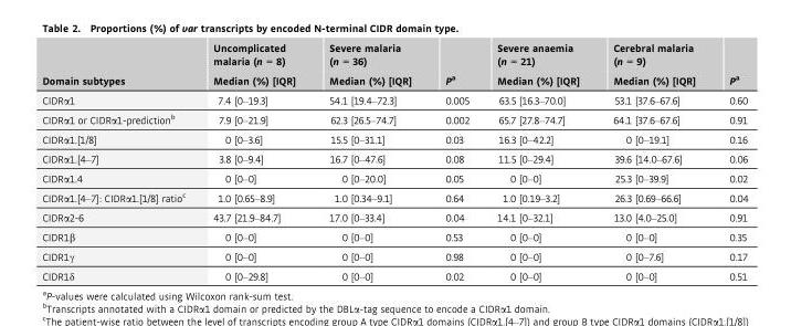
<table><thead><tr><td rowspan="2">Domain subtypes</td><td rowspan="2">Uncomplicated malaria (n = 8) Median (%) [IQR]</td><td rowspan="2">Severe malaria (n = 36) Median (%) [IQR]</td><td rowspan="2">Pa</td><td rowspan="2">Severe anaemia (n = 21) Median (%) [IQR]</td><td rowspan="2">Cerebral malaria (n = 9) Median (%) [IQR]</td><td rowspan="2">Pa</td></tr><tr></tr></thead><tbody><tr><td>CIDRα1</td><td>7.4 [0–19.3]</td><td>54.1 [19.4–72.3]</td><td>0.005</td><td>63.5 [16.3–70.0]</td><td>53.1 [37.6–67.6]</td><td>0.60</td></tr><tr><td>CIDRα1 or CIDRα1-prediction<sup>b</sup></td><td>7.9 [0–21.9]</td><td>62.3 [26.5–74.7]</td><td>0.002</td><td>65.7 [27.8–74.7]</td><td>64.1 [37.6–67.6]</td><td>0.91</td></tr><tr><td>CIDRα1.[1/8]</td><td>0 [0–3.6]</td><td>15.5 [0–31.1]</td><td>0.03</td><td>16.3 [0–42.2]</td><td>0 [0–19.1]</td><td>0.16</td></tr><tr><td>CIDRα1.[4–7]</td><td>3.8 [0–9.4]</td><td>16.7 [0–47.6]</td><td>0.08</td><td>11.5 [0–29.4]</td><td>39.6 [14.0–67.6]</td><td>0.06</td></tr><tr><td>CIDRα1.4</td><td>0 [0–0]</td><td>0 [0–20.0]</td><td>0.05</td><td>0 [0–0]</td><td>25.3 [0–39.9]</td><td>0.02</td></tr><tr><td>CIDRα1.[4–7]: CIDRα1.[1/8] ratio<sup>c</sup></td><td>1.0 [0.65–8.9]</td><td>1.0 [0.34–9.1]</td><td>0.64</td><td>1.0 [0.19–3.2]</td><td>26.3 [0.69–66.6]</td><td>0.04</td></tr><tr><td>CIDRα2-6</td><td>43.7 [21.9–84.7]</td><td>17.0 [0–33.4]</td><td>0.04</td><td>14.1 [0–32.1]</td><td>13.0 [4.0–25.0]</td><td>0.91</td></tr><tr><td>CIDR1β</td><td>0 [0–0]</td><td>0 [0–0]</td><td>0.53</td><td>0 [0–0]</td><td>0 [0–0]</td><td>0.35</td></tr><tr><td>CIDR1γ</td><td>0 [0–0]</td><td>0 [0–0]</td><td>0.98</td><td>0 [0–0]</td><td>0 [0–7.6]</td><td>0.17</td></tr><tr><td>CIDR1δ</td><td>0 [0–29.8]</td><td>0 [0–0]</td><td>0.02</td><td>0 [0–0]</td><td>0 [0–0]</td><td>0.51</td></tr></tbody></table>